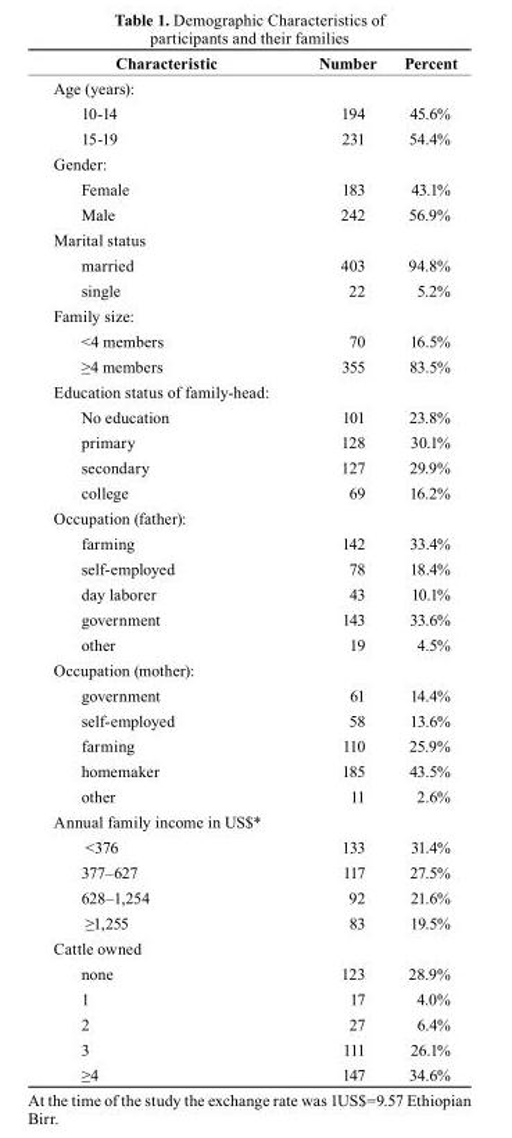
<table><thead><tr><td>characteristic</td><td>Number</td><td>Percent</td></tr></thead><tbody><tr><td colspan="3">Age (years):</td></tr><tr><td>10-14</td><td>194</td><td>45.6%</td></tr><tr><td>15-19</td><td>231</td><td>54.4%</td></tr><tr><td colspan="3">Gender:</td></tr><tr><td>Female</td><td>183</td><td>43.1%</td></tr><tr><td>Male</td><td>242</td><td>56.9%</td></tr><tr><td colspan="3">Marital status</td></tr><tr><td>married</td><td>403</td><td>94.8%</td></tr><tr><td>single</td><td>22</td><td>5.2%</td></tr><tr><td colspan="3">Family size:</td></tr><tr><td>&lt;4 members</td><td>70</td><td>16.5%</td></tr><tr><td>≥4 members</td><td>355</td><td>83.5%</td></tr><tr><td colspan="3">Education status of family-head:</td></tr><tr><td>No education</td><td>101</td><td>23.8%</td></tr><tr><td>primary</td><td>128</td><td>30.1%</td></tr><tr><td>secondary</td><td>127</td><td>29.9%</td></tr><tr><td>college</td><td>69</td><td>16.2%</td></tr><tr><td colspan="3">Occupation (father):</td></tr><tr><td>farming</td><td>142</td><td>33.4%</td></tr><tr><td>self-employed</td><td>78</td><td>18.4%</td></tr><tr><td>day laborer</td><td>43</td><td>10.1%</td></tr><tr><td>government</td><td>143</td><td>33.6%</td></tr><tr><td>other</td><td>19</td><td>4.5%</td></tr><tr><td colspan="3">Occupation (mother):</td></tr><tr><td>government</td><td>61</td><td>14.4%</td></tr><tr><td>self-employed</td><td>58</td><td>13.6%</td></tr><tr><td>farming</td><td>110</td><td>25.9%</td></tr><tr><td>homemaker</td><td>185</td><td>43.5%</td></tr><tr><td>other</td><td>11</td><td>2.6%</td></tr><tr><td colspan="3">Annual family income in US$*</td></tr><tr><td>&lt;376</td><td>133</td><td>31.4%</td></tr><tr><td>377–627</td><td>117</td><td>27.5%</td></tr><tr><td>628–1,254</td><td>92</td><td>21.6%</td></tr><tr><td>≥1,255</td><td>83</td><td>19.5%</td></tr><tr><td colspan="3">Cattle owned</td></tr><tr><td>none</td><td>123</td><td>28.9%</td></tr><tr><td>1</td><td>17</td><td>4.0%</td></tr><tr><td>2</td><td>27</td><td>6.4%</td></tr><tr><td>3</td><td>111</td><td>26.1%</td></tr><tr><td>≥4</td><td>147</td><td>34.6%</td></tr></tbody></table>